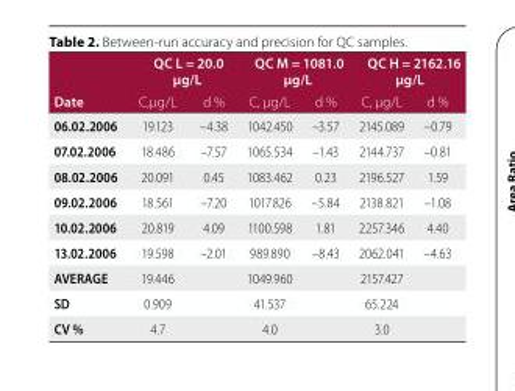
<table><thead><tr><td rowspan="2">Date</td><td colspan="2">QC L = 20.0 μg/L</td><td colspan="2">QC M = 1081.0 μg/L</td><td colspan="2">QC H = 2162.16 μg/L</td></tr><tr><td>C,μg/L</td><td>d %</td><td>C, μg/L</td><td>d %</td><td>C, μg/L</td><td>d %</td></tr></thead><tbody><tr><td>06.02.2006</td><td>19.123</td><td>–4.38</td><td>1042.450</td><td>–3.57</td><td>2145.089</td><td>–0.79</td></tr><tr><td>07.02.2006</td><td>18.486</td><td>–7.57</td><td>1065.534</td><td>–1.43</td><td>2144.737</td><td>–0.81</td></tr><tr><td>08.02.2006</td><td>20.091</td><td>0.45</td><td>1083.462</td><td>0.23</td><td>2196.527</td><td>1.59</td></tr><tr><td>09.02.2006</td><td>18.561</td><td>–7.20</td><td>1017.826</td><td>–5.84</td><td>2138.821</td><td>–1.08</td></tr><tr><td>10.02.2006</td><td>20.819</td><td>4.09</td><td>1100.598</td><td>1.81</td><td>2257.346</td><td>4.40</td></tr><tr><td>13.02.2006</td><td>19.598</td><td>–2.01</td><td>989.890</td><td>–8.43</td><td>2062.041</td><td>–4.63</td></tr><tr><td>AVERAGE</td><td>19.446</td><td></td><td>1049.960</td><td></td><td>2157.427</td><td></td></tr><tr><td>SD</td><td>0.909</td><td></td><td>41.537</td><td></td><td>65.224</td><td></td></tr><tr><td>CV %</td><td>4.7</td><td></td><td>4.0</td><td></td><td>3.0</td><td></td></tr></tbody></table>